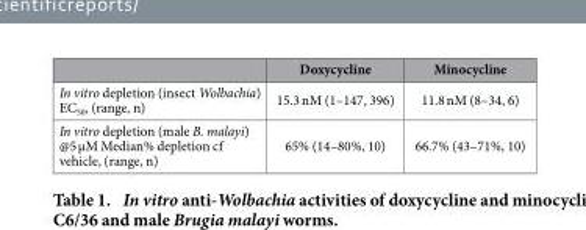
<table><thead><tr><td></td><td>Doxycycline</td><td>Minocycline</td></tr></thead><tbody><tr><td>In vitro depletion (insect Wolbachia) EC<sub>50</sub>, (range, n)</td><td>15.3 nM (1–147, 396)</td><td>11.8 nM (8–34, 6)</td></tr><tr><td>In vitro depletion (male B. malayi) @5 μM Median% depletion cf vehicle, (range, n)</td><td>65% (14–80%, 10)</td><td>66.7% (43–71%, 10)</td></tr></tbody></table>